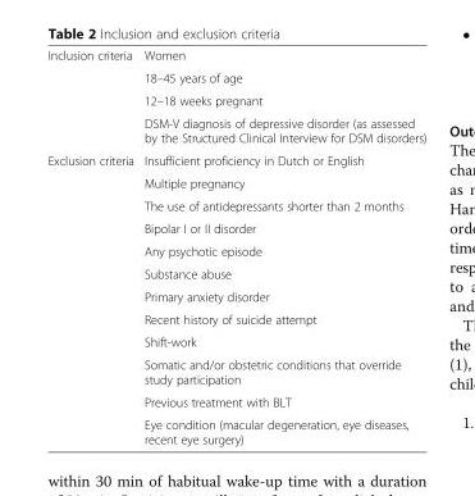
<table><tbody><tr><td rowspan="4">Inclusion criteria</td><td>Women</td></tr><tr><td>18–45 years of age</td></tr><tr><td>12–18 weeks pregnant</td></tr><tr><td>DSM-V diagnosis of depressive disorder (as assessed by the Structured Clinical Interview for DSM disorders)</td></tr><tr><td rowspan="12">Exclusion criteria</td><td>Insufficient proficiency in Dutch or English</td></tr><tr><td>Multiple pregnancy</td></tr><tr><td>The use of antidepressants shorter than 2 months</td></tr><tr><td>Bipolar I or II disorder</td></tr><tr><td>Any psychotic episode</td></tr><tr><td>Substance abuse</td></tr><tr><td>Primary anxiety disorder</td></tr><tr><td>Recent history of suicide attempt</td></tr><tr><td>Shift-work</td></tr><tr><td>Somatic and/or obstetric conditions that override study participation</td></tr><tr><td>Previous treatment with BLT</td></tr><tr><td>Eye condition (macular degeneration, eye diseases, recent eye surgery)</td></tr></tbody></table>